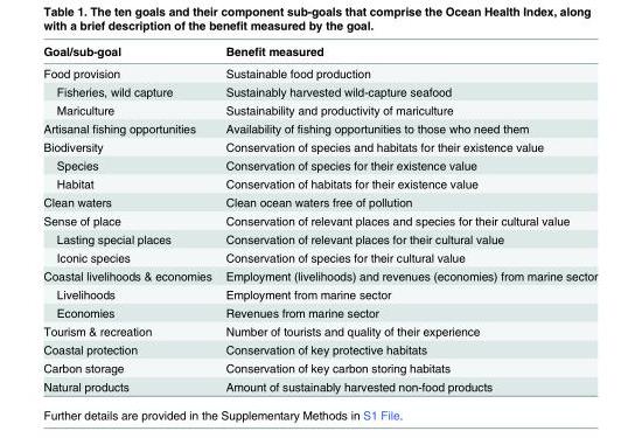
<table><thead><tr><td>Goal/sub-goal</td><td>Benefit measured</td></tr></thead><tbody><tr><td>Food provision</td><td>Sustainable food production</td></tr><tr><td>Fisheries, wild capture</td><td>Sustainably harvested wild-capture seafood</td></tr><tr><td>Mariculture</td><td>Sustainability and productivity of mariculture</td></tr><tr><td>Artisanal fishing opportunities</td><td>Availability of fishing opportunities to those who need them</td></tr><tr><td>Biodiversity</td><td>Conservation of species and habitats for their existence value</td></tr><tr><td>Species</td><td>Conservation of species for their existence value</td></tr><tr><td>Habitat</td><td>Conservation of habitats for their existence value</td></tr><tr><td>Clean waters</td><td>Clean ocean waters free of pollution</td></tr><tr><td>Sense of place</td><td>Conservation of relevant places and species for their cultural value</td></tr><tr><td>Lasting special places</td><td>Conservation of relevant places for their cultural value</td></tr><tr><td>Iconic species</td><td>Conservation of species for their cultural value</td></tr><tr><td>Coastal livelihoods &amp; economies</td><td>Employment (livelihoods) and revenues (economies) from marine sector</td></tr><tr><td>Livelihoods</td><td>Employment from marine sector</td></tr><tr><td>Economies</td><td>Revenues from marine sector</td></tr><tr><td>Tourism &amp; recreation</td><td>Number of tourists and quality of their experience</td></tr><tr><td>Coastal protection</td><td>Conservation of key protective habitats</td></tr><tr><td>Carbon storage</td><td>Conservation of key carbon storing habitats</td></tr><tr><td>Natural products</td><td>Amount of sustainably harvested non-food products</td></tr></tbody></table>